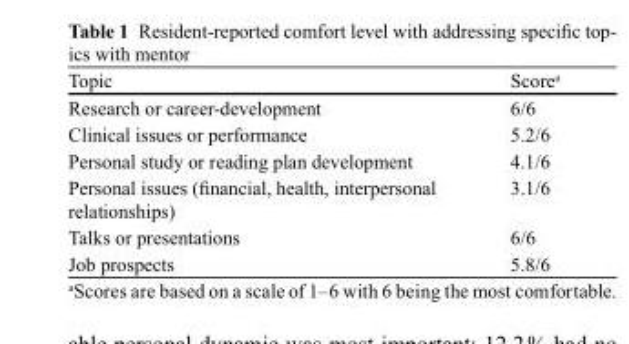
<table><thead><tr><td>Topic</td><td>Score<sup>a</sup></td></tr></thead><tbody><tr><td>Research or career-development</td><td>6/6</td></tr><tr><td>Clinical issues or performance</td><td>5.2/6</td></tr><tr><td>Personal study or reading plan development</td><td>4.1/6</td></tr><tr><td>Personal issues (financial, health, interpersonal relationships)</td><td>3.1/6</td></tr><tr><td>Talks or presentations</td><td>6/6</td></tr><tr><td>Job prospects</td><td>5.8/6</td></tr></tbody></table>